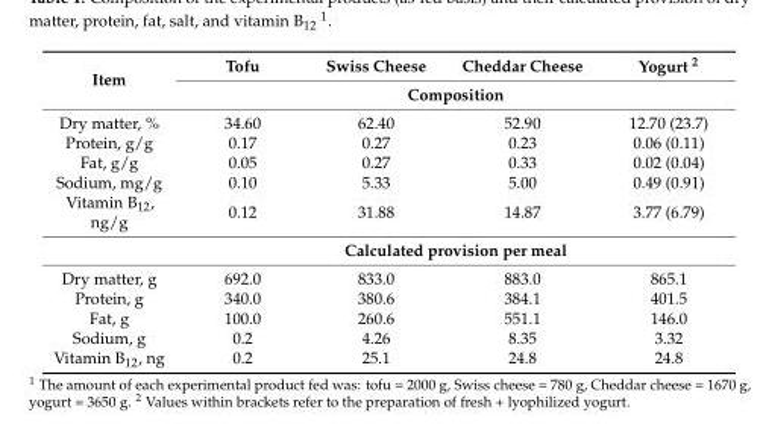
<table><thead><tr><td rowspan="2">Item</td><td>Tofu</td><td>Swiss Cheese</td><td>Cheddar Cheese</td><td>Yogurt <sup>2</sup></td></tr><tr><td colspan="4">Composition</td></tr></thead><tbody><tr><td>Dry matter, %</td><td>34.60</td><td>62.40</td><td>52.90</td><td>12.70 (23.7)</td></tr><tr><td>Protein, g/g</td><td>0.17</td><td>0.27</td><td>0.23</td><td>0.06 (0.11)</td></tr><tr><td>Fat, g/g</td><td>0.05</td><td>0.27</td><td>0.33</td><td>0.02 (0.04)</td></tr><tr><td>Sodium, mg/g</td><td>0.10</td><td>5.33</td><td>5.00</td><td>0.49 (0.91)</td></tr><tr><td rowspan="2">Vitamin B<sub>12</sub>, ng/g</td><td>0.12</td><td>31.88</td><td>14.87</td><td>3.77 (6.79)</td></tr><tr><td colspan="4">Calculated provision per meal</td></tr><tr><td>Dry matter, g</td><td>692.0</td><td>833.0</td><td>883.0</td><td>865.1</td></tr><tr><td>Protein, g</td><td>340.0</td><td>380.6</td><td>384.1</td><td>401.5</td></tr><tr><td>Fat, g</td><td>100.0</td><td>260.6</td><td>551.1</td><td>146.0</td></tr><tr><td>Sodium, g</td><td>0.2</td><td>4.26</td><td>8.35</td><td>3.32</td></tr><tr><td>Vitamin B<sub>12</sub>, ng</td><td>0.2</td><td>25.1</td><td>24.8</td><td>24.8</td></tr></tbody></table>